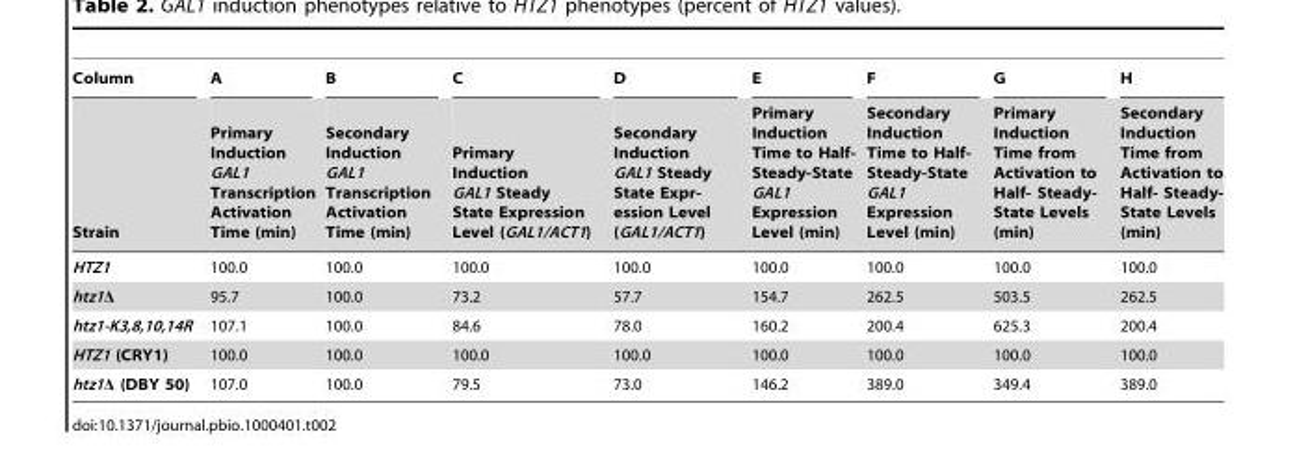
<table><thead><tr><td rowspan="2">Column Strain</td><td rowspan="2">A Primary Induction GAL1 Transcription Activation Time (min)</td><td rowspan="2">B Secondary Induction GAL1 Transcription Activation Time (min)</td><td rowspan="2">C Primary Induction GAL1 Steady State Expression Level (GAL1/ACT1)</td><td rowspan="2">D Secondary Induction GAL1 Steady State Expr- ession Level (GAL1/ACT1)</td><td rowspan="2">E Primary Induction Time to Half- Steady-State GAL1 Expression Level (min)</td><td rowspan="2">F Secondary Induction Time to Half- Steady-State GAL1 Expression Level (min)</td><td rowspan="2">G Primary Induction Time from Activation to Half- Steady- State Levels (min)</td><td rowspan="2">H Secondary Induction Time from Activation to Half- Steady- State Levels (min)</td></tr><tr></tr></thead><tbody><tr><td>HTZ1</td><td>100.0</td><td>100.0</td><td>100.0</td><td>100.0</td><td>100.0</td><td>100.0</td><td>100.0</td><td>100.0</td></tr><tr><td>htz1Δ</td><td>95.7</td><td>100.0</td><td>73.2</td><td>57.7</td><td>154.7</td><td>262.5</td><td>503.5</td><td>262.5</td></tr><tr><td>htz1-K3,8,10,14R</td><td>107.1</td><td>100.0</td><td>84.6</td><td>78.0</td><td>160.2</td><td>200.4</td><td>625.3</td><td>200.4</td></tr><tr><td>HTZ1 (CRY1)</td><td>100.0</td><td>100.0</td><td>100.0</td><td>100.0</td><td>100.0</td><td>100.0</td><td>100.0</td><td>100.0</td></tr><tr><td>htz1Δ (DBY 50)</td><td>107.0</td><td>100.0</td><td>79.5</td><td>73.0</td><td>146.2</td><td>389.0</td><td>349.4</td><td>389.0</td></tr></tbody></table>